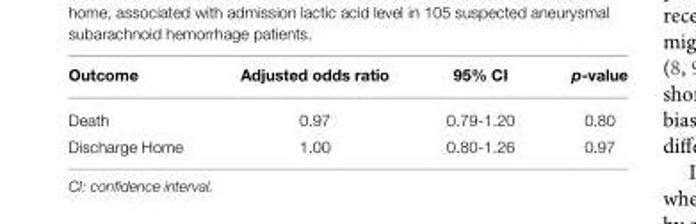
<table><thead><tr><td>Outcome</td><td>Adjusted odds ratio</td><td>95% CI</td><td>p-value</td></tr></thead><tbody><tr><td>Death</td><td>0.97</td><td>0.79-1.20</td><td>0.80</td></tr><tr><td>Discharge Home</td><td>1.00</td><td>0.80-1.26</td><td>0.97</td></tr></tbody></table>